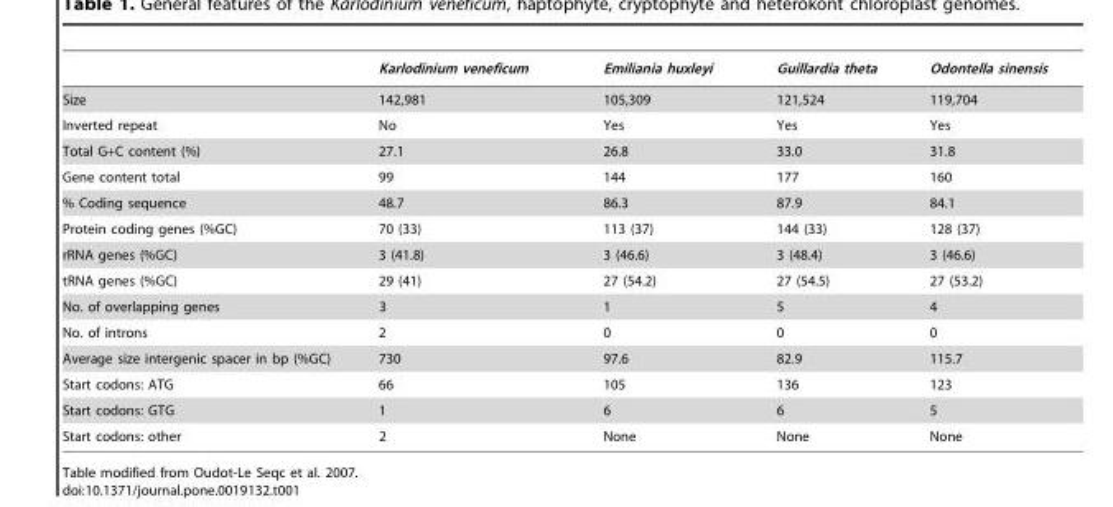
<table><thead><tr><td></td><td>Karlodinium veneficum</td><td>Emiliania huxleyi</td><td>Guillardia theta</td><td>Odontella sinensis</td></tr></thead><tbody><tr><td>Size</td><td>142,981</td><td>105,309</td><td>121,524</td><td>119,704</td></tr><tr><td>Inverted repeat</td><td>No</td><td>Yes</td><td>Yes</td><td>Yes</td></tr><tr><td>Total G+C content (%)</td><td>27.1</td><td>26.8</td><td>33.0</td><td>31.8</td></tr><tr><td>Gene content total</td><td>99</td><td>144</td><td>177</td><td>160</td></tr><tr><td>% Coding sequence</td><td>48.7</td><td>86.3</td><td>87.9</td><td>84.1</td></tr><tr><td>Protein coding genes (%GC)</td><td>70 (33)</td><td>113 (37)</td><td>144 (33)</td><td>128 (37)</td></tr><tr><td>rRNA genes (%GC)</td><td>3 (41.8)</td><td>3 (46.6)</td><td>3 (48.4)</td><td>3 (46.6)</td></tr><tr><td>tRNA genes (%GC)</td><td>29 (41)</td><td>27 (54.2)</td><td>27 (54.5)</td><td>27 (53.2)</td></tr><tr><td>No. of overlapping genes</td><td>3</td><td>1</td><td>5</td><td>4</td></tr><tr><td>No. of introns</td><td>2</td><td>0</td><td>0</td><td>0</td></tr><tr><td>Average size intergenic spacer in bp (%GC)</td><td>730</td><td>97.6</td><td>82.9</td><td>115.7</td></tr><tr><td>Start codons: ATG</td><td>66</td><td>105</td><td>136</td><td>123</td></tr><tr><td>Start codons: GTG</td><td>1</td><td>6</td><td>6</td><td>5</td></tr><tr><td>Start codons: other</td><td>2</td><td>None</td><td>None</td><td>None</td></tr></tbody></table>